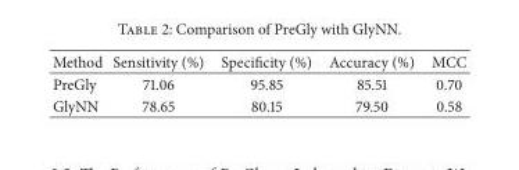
<table><thead><tr><td>Method</td><td>Sensitivity (%)</td><td>Specificity (%)</td><td>Accuracy (%)</td><td>MCC</td></tr></thead><tbody><tr><td>PreGly</td><td>71.06</td><td>95.85</td><td>85.51</td><td>0.70</td></tr><tr><td>GlyNN</td><td>78.65</td><td>80.15</td><td>79.50</td><td>0.58</td></tr></tbody></table>